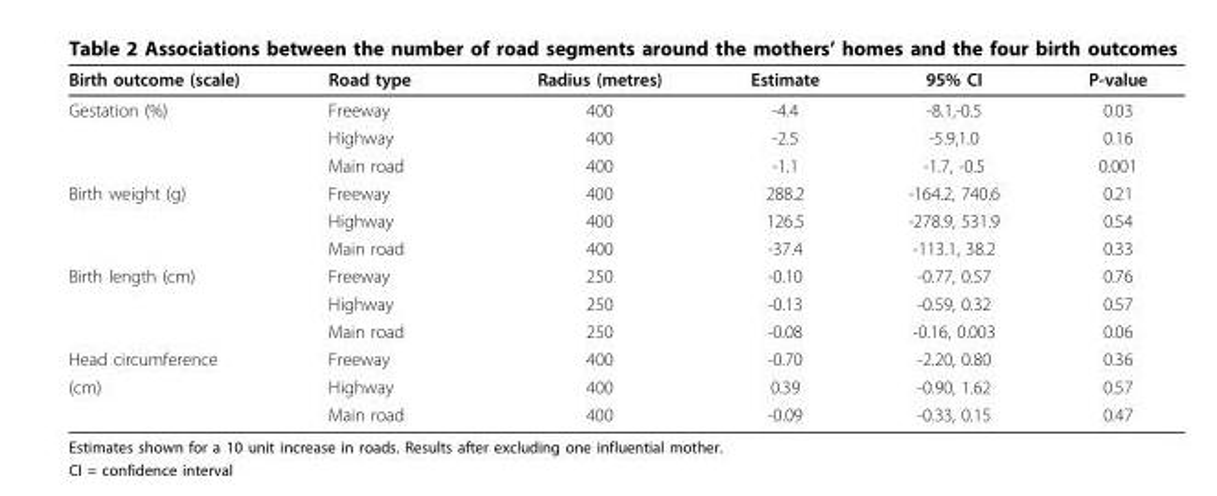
<table><thead><tr><td>Birth outcome (scale)</td><td>Road type</td><td>Radius (metres)</td><td>Estimate</td><td>95% CI</td><td>P-value</td></tr></thead><tbody><tr><td rowspan="3">Gestation (%)</td><td>Freeway</td><td>400</td><td>-4.4</td><td>-8.1,-0.5</td><td>0.03</td></tr><tr><td>Highway</td><td>400</td><td>-2.5</td><td>-5.9,1.0</td><td>0.16</td></tr><tr><td>Main road</td><td>400</td><td>-1.1</td><td>-1.7, -0.5</td><td>0.001</td></tr><tr><td rowspan="3">Birth weight (g)</td><td>Freeway</td><td>400</td><td>288.2</td><td>-164.2, 740.6</td><td>0.21</td></tr><tr><td>Highway</td><td>400</td><td>126.5</td><td>-278.9, 531.9</td><td>0.54</td></tr><tr><td>Main road</td><td>400</td><td>-37.4</td><td>-113.1, 38.2</td><td>0.33</td></tr><tr><td rowspan="3">Birth length (cm)</td><td>Freeway</td><td>250</td><td>-0.10</td><td>-0.77, 0.57</td><td>0.76</td></tr><tr><td>Highway</td><td>250</td><td>-0.13</td><td>-0.59, 0.32</td><td>0.57</td></tr><tr><td>Main road</td><td>250</td><td>-0.08</td><td>-0.16, 0.003</td><td>0.06</td></tr><tr><td>Head circumference</td><td>Freeway</td><td>400</td><td>-0.70</td><td>-2.20, 0.80</td><td>0.36</td></tr><tr><td rowspan="2">(cm)</td><td>Highway</td><td>400</td><td>0.39</td><td>-0.90, 1.62</td><td>0.57</td></tr><tr><td>Main road</td><td>400</td><td>-0.09</td><td>-0.33, 0.15</td><td>0.47</td></tr></tbody></table>